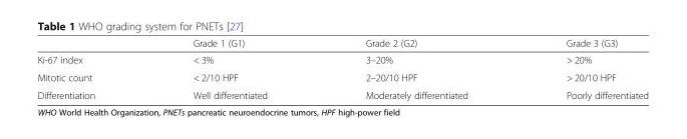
<table><thead><tr><td></td><td>Grade 1 (G1)</td><td>Grade 2 (G2)</td><td>Grade 3 (G3)</td></tr></thead><tbody><tr><td>Ki-67 index</td><td>&lt; 3%</td><td>3–20%</td><td>&gt; 20%</td></tr><tr><td>Mitotic count</td><td>&lt; 2/10 HPF</td><td>2–20/10 HPF</td><td>&gt; 20/10 HPF</td></tr><tr><td>Differentiation</td><td>Well differentiated</td><td>Moderately differentiated</td><td>Poorly differentiated</td></tr></tbody></table>